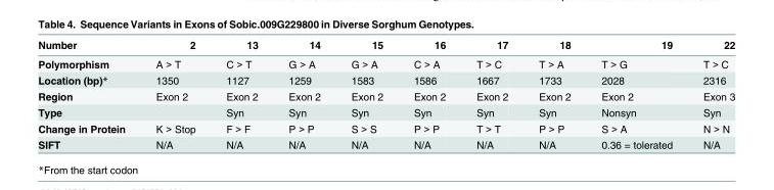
<table><thead><tr><td>Number</td><td>2</td><td>13</td><td>14</td><td>15</td><td>16</td><td>17</td><td>18</td><td>19</td><td>22</td></tr></thead><tbody><tr><td>Polymorphism</td><td>A &gt; T</td><td>C &gt; T</td><td>G &gt; A</td><td>G &gt; A</td><td>C &gt; A</td><td>T &gt; C</td><td>T &gt; A</td><td>T &gt; G</td><td>T &gt; C</td></tr><tr><td>Location (bp)*</td><td>1350</td><td>1127</td><td>1259</td><td>1583</td><td>1586</td><td>1667</td><td>1733</td><td>2028</td><td>2316</td></tr><tr><td>Region</td><td>Exon 2</td><td>Exon 2</td><td>Exon 2</td><td>Exon 2</td><td>Exon 2</td><td>Exon 2</td><td>Exon 2</td><td>Exon 2</td><td>Exon 3</td></tr><tr><td>Type</td><td></td><td>Syn</td><td>Syn</td><td>Syn</td><td>Syn</td><td>Syn</td><td>Syn</td><td>Nonsyn</td><td>Syn</td></tr><tr><td>Change in Protein</td><td>K &gt; Stop</td><td>F &gt; F</td><td>P &gt; P</td><td>S &gt; S</td><td>P &gt; P</td><td>T &gt; T</td><td>P &gt; P</td><td>S &gt; A</td><td>N &gt; N</td></tr><tr><td>SIFT</td><td>N/A</td><td>N/A</td><td>N/A</td><td>N/A</td><td>N/A</td><td>N/A</td><td>N/A</td><td>0.36 = tolerated</td><td>N/A</td></tr></tbody></table>